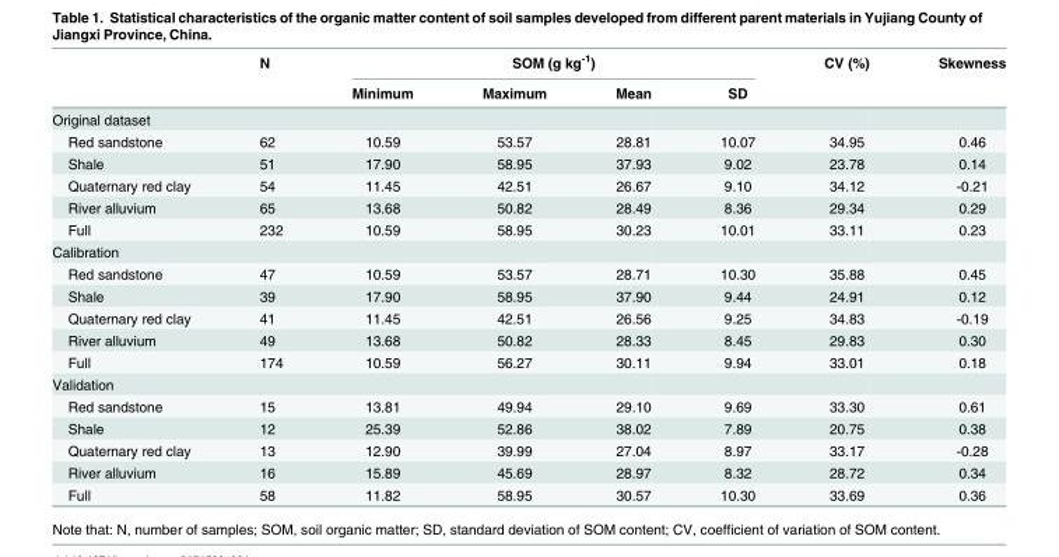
<table><thead><tr><td rowspan="2"></td><td rowspan="2">N</td><td colspan="4">SOM (g kg<sup>-1</sup>)</td><td rowspan="2">CV (%)</td><td rowspan="2">Skewness</td></tr><tr><td>Minimum</td><td>Maximum</td><td>Mean</td><td>SD</td></tr></thead><tbody><tr><td colspan="8">Original dataset</td></tr><tr><td>Red sandstone</td><td>62</td><td>10.59</td><td>53.57</td><td>28.81</td><td>10.07</td><td>34.95</td><td>0.46</td></tr><tr><td>Shale</td><td>51</td><td>17.90</td><td>58.95</td><td>37.93</td><td>9.02</td><td>23.78</td><td>0.14</td></tr><tr><td>Quaternary red clay</td><td>54</td><td>11.45</td><td>42.51</td><td>26.67</td><td>9.10</td><td>34.12</td><td>-0.21</td></tr><tr><td>River alluvium</td><td>65</td><td>13.68</td><td>50.82</td><td>28.49</td><td>8.36</td><td>29.34</td><td>0.29</td></tr><tr><td>Full</td><td>232</td><td>10.59</td><td>58.95</td><td>30.23</td><td>10.01</td><td>33.11</td><td>0.23</td></tr><tr><td colspan="8">Calibration</td></tr><tr><td>Red sandstone</td><td>47</td><td>10.59</td><td>53.57</td><td>28.71</td><td>10.30</td><td>35.88</td><td>0.45</td></tr><tr><td>Shale</td><td>39</td><td>17.90</td><td>58.95</td><td>37.90</td><td>9.44</td><td>24.91</td><td>0.12</td></tr><tr><td>Quaternary red clay</td><td>41</td><td>11.45</td><td>42.51</td><td>26.56</td><td>9.25</td><td>34.83</td><td>-0.19</td></tr><tr><td>River alluvium</td><td>49</td><td>13.68</td><td>50.82</td><td>28.33</td><td>8.45</td><td>29.83</td><td>0.30</td></tr><tr><td>Full</td><td>174</td><td>10.59</td><td>56.27</td><td>30.11</td><td>9.94</td><td>33.01</td><td>0.18</td></tr><tr><td colspan="8">Validation</td></tr><tr><td>Red sandstone</td><td>15</td><td>13.81</td><td>49.94</td><td>29.10</td><td>9.69</td><td>33.30</td><td>0.61</td></tr><tr><td>Shale</td><td>12</td><td>25.39</td><td>52.86</td><td>38.02</td><td>7.89</td><td>20.75</td><td>0.38</td></tr><tr><td>Quaternary red clay</td><td>13</td><td>12.90</td><td>39.99</td><td>27.04</td><td>8.97</td><td>33.17</td><td>-0.28</td></tr><tr><td>River alluvium</td><td>16</td><td>15.89</td><td>45.69</td><td>28.97</td><td>8.32</td><td>28.72</td><td>0.34</td></tr><tr><td>Full</td><td>58</td><td>11.82</td><td>58.95</td><td>30.57</td><td>10.30</td><td>33.69</td><td>0.36</td></tr></tbody></table>